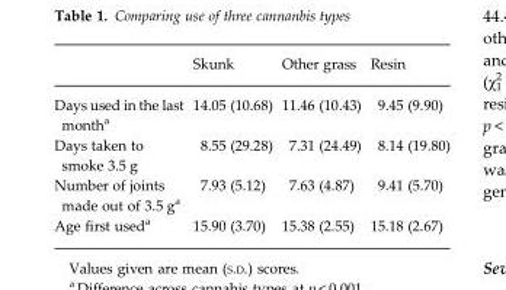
<table><thead><tr><td></td><td>Skunk</td><td>Other grass</td><td>Resin</td></tr></thead><tbody><tr><td>Days used in the last month<sup>a</sup></td><td>14.05 (10.68)</td><td>11.46 (10.43)</td><td>9.45 (9.90)</td></tr><tr><td>Days taken to smoke 3.5 g</td><td>8.55 (29.28)</td><td>7.31 (24.49)</td><td>8.14 (19.80)</td></tr><tr><td>Number of joints made out of 3.5 g<sup>a</sup></td><td>7.93 (5.12)</td><td>7.63 (4.87)</td><td>9.41 (5.70)</td></tr><tr><td>Age first used<sup>a</sup></td><td>15.90 (3.70)</td><td>15.38 (2.55)</td><td>15.18 (2.67)</td></tr></tbody></table>